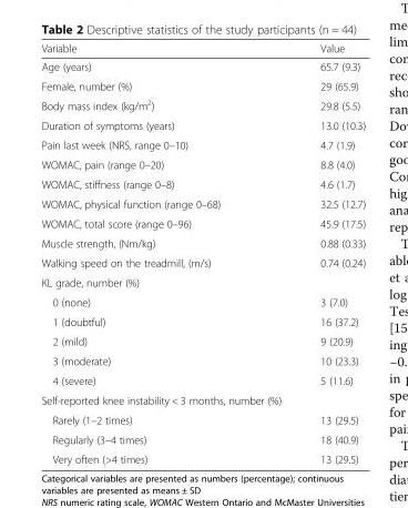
<table><thead><tr><td>Variable</td><td>Value</td></tr></thead><tbody><tr><td>Age (years)</td><td>65.7 (9.3)</td></tr><tr><td>Female, number (%)</td><td>29 (65.9)</td></tr><tr><td>Body mass index (kg/m<sup>2</sup>)</td><td>29.8 (5.5)</td></tr><tr><td>Duration of symptoms (years)</td><td>13.0 (10.3)</td></tr><tr><td>Pain last week (NRS, range 0–10)</td><td>4.7 (1.9)</td></tr><tr><td>WOMAC, pain (range 0–20)</td><td>8.8 (4.0)</td></tr><tr><td>WOMAC, stiffness (range 0–8)</td><td>4.6 (1.7)</td></tr><tr><td>WOMAC, physical function (range 0–68)</td><td>32.5 (12.7)</td></tr><tr><td>WOMAC, total score (range 0–96)</td><td>45.9 (17.5)</td></tr><tr><td>Muscle strength, (Nm/kg)</td><td>0.88 (0.33)</td></tr><tr><td>Walking speed on the treadmill, (m/s)</td><td>0.74 (0.24)</td></tr><tr><td colspan="2">KL grade, number (%)</td></tr><tr><td>0 (none)</td><td>3 (7.0)</td></tr><tr><td>1 (doubtful)</td><td>16 (37.2)</td></tr><tr><td>2 (mild)</td><td>9 (20.9)</td></tr><tr><td>3 (moderate)</td><td>10 (23.3)</td></tr><tr><td>4 (severe)</td><td>5 (11.6)</td></tr><tr><td colspan="2">Self-reported knee instability &lt; 3 months, number (%)</td></tr><tr><td>Rarely (1–2 times)</td><td>13 (29.5)</td></tr><tr><td>Regularly (3–4 times)</td><td>18 (40.9)</td></tr><tr><td>Very often (&gt;4 times)</td><td>13 (29.5)</td></tr></tbody></table>